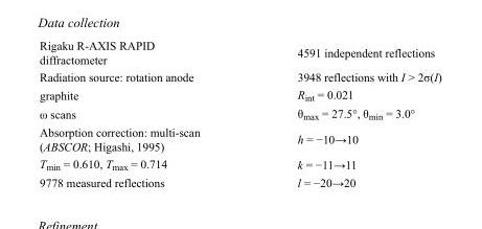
<table><tbody><tr><td>Rigaku R-AXIS RAPID diffractometer</td><td>4591 independent reflections</td></tr><tr><td>Radiation source: rotation anode</td><td>3948 reflections with I &gt; 2σ(I)</td></tr><tr><td>graphite</td><td>R<sub>int</sub> = 0.021</td></tr><tr><td>ω scans</td><td>θ<sub>max</sub> = 27.5°, θ<sub>min</sub> = 3.0°</td></tr><tr><td>Absorption correction: multi-scan (ABSCOR; Higashi, 1995)</td><td>h = −10→10</td></tr><tr><td>T<sub>min</sub> = 0.610, T<sub>max</sub> = 0.714</td><td>k = −11→11</td></tr><tr><td>9778 measured reflections</td><td>l = −20→20</td></tr></tbody></table>